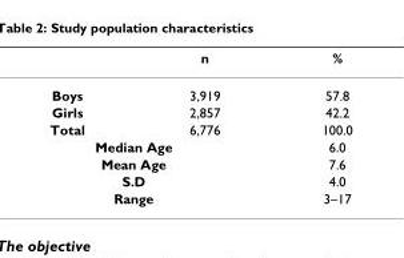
<table><thead><tr><td></td><td>n</td><td>%</td></tr></thead><tbody><tr><td>Boys</td><td>3,919</td><td>57.8</td></tr><tr><td>Girls</td><td>2,857</td><td>42.2</td></tr><tr><td>Total</td><td>6,776</td><td>100.0</td></tr><tr><td colspan="2">Median Age</td><td>6.0</td></tr><tr><td colspan="2">Mean Age</td><td>7.6</td></tr><tr><td colspan="2">S.D</td><td>4.0</td></tr><tr><td colspan="2">Range</td><td>3–17</td></tr></tbody></table>